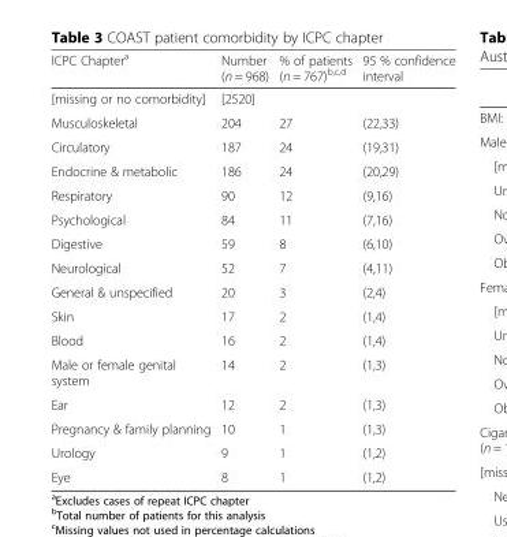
<table><thead><tr><td>ICPC Chapter<sup>a</sup></td><td>Number (n = 968)</td><td>% of patients (n = 767)<sup>b,c,d</sup></td><td>95 % confidence interval</td></tr></thead><tbody><tr><td>[missing or no comorbidity]</td><td>[2520]</td><td></td><td></td></tr><tr><td>Musculoskeletal</td><td>204</td><td>27</td><td>(22,33)</td></tr><tr><td>Circulatory</td><td>187</td><td>24</td><td>(19,31)</td></tr><tr><td>Endocrine &amp; metabolic</td><td>186</td><td>24</td><td>(20,29)</td></tr><tr><td>Respiratory</td><td>90</td><td>12</td><td>(9,16)</td></tr><tr><td>Psychological</td><td>84</td><td>11</td><td>(7,16)</td></tr><tr><td>Digestive</td><td>59</td><td>8</td><td>(6,10)</td></tr><tr><td>Neurological</td><td>52</td><td>7</td><td>(4,11)</td></tr><tr><td>General &amp; unspecified</td><td>20</td><td>3</td><td>(2,4)</td></tr><tr><td>Skin</td><td>17</td><td>2</td><td>(1,4)</td></tr><tr><td>Blood</td><td>16</td><td>2</td><td>(1,4)</td></tr><tr><td>Male or female genital system</td><td>14</td><td>2</td><td>(1,3)</td></tr><tr><td>Ear</td><td>12</td><td>2</td><td>(1,3)</td></tr><tr><td>Pregnancy &amp; family planning</td><td>10</td><td>1</td><td>(1,3)</td></tr><tr><td>Urology</td><td>9</td><td>1</td><td>(1,2)</td></tr><tr><td>Eye</td><td>8</td><td>1</td><td>(1,2)</td></tr></tbody></table>